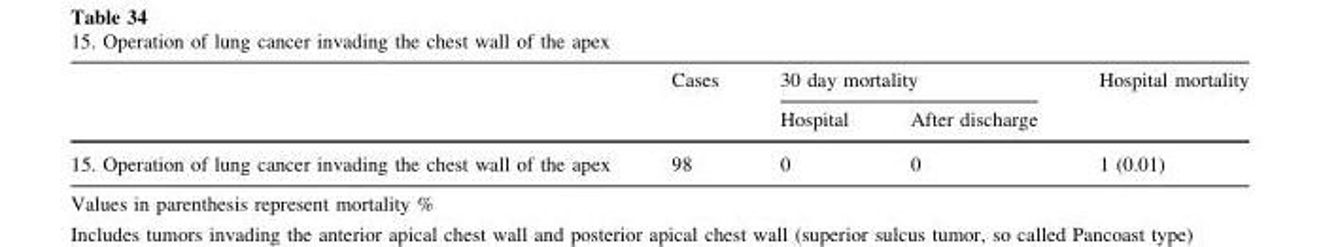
<table><thead><tr><td rowspan="2"></td><td rowspan="2">Cases</td><td colspan="2">30 day mortality</td><td rowspan="2">Hospital mortality</td></tr><tr><td>Hospital</td><td>After discharge</td></tr></thead><tbody><tr><td>15. Operation of lung cancer invading the chest wall of the apex</td><td>98</td><td>0</td><td>0</td><td>1 (0.01)</td></tr></tbody></table>